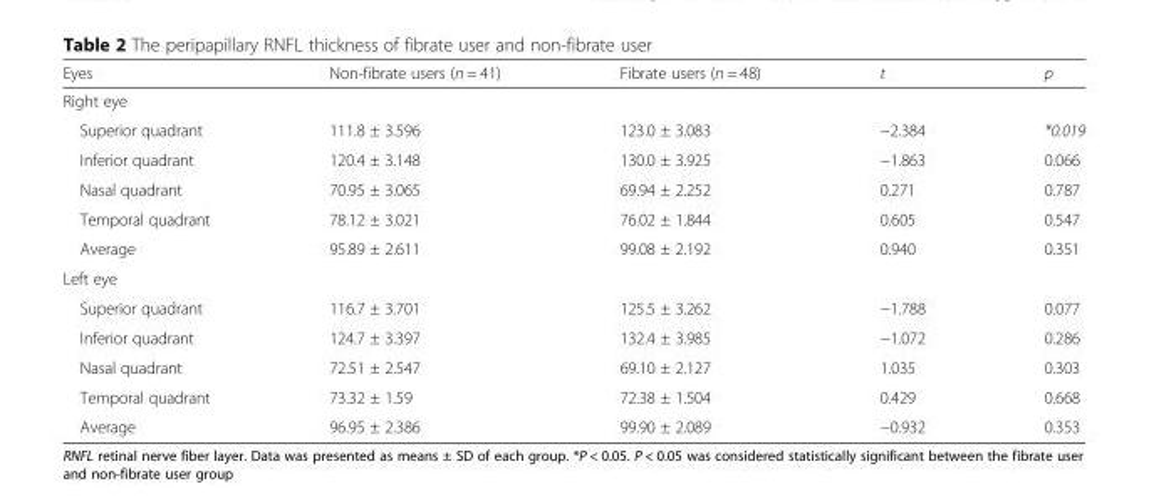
<table><thead><tr><td>Eyes</td><td>Non-fibrate users (n = 41)</td><td>Fibrate users (n = 48)</td><td>t</td><td>p</td></tr></thead><tbody><tr><td colspan="5">Right eye</td></tr><tr><td>Superior quadrant</td><td>111.8 ± 3.596</td><td>123.0 ± 3.083</td><td>−2.384</td><td>*0.019</td></tr><tr><td>Inferior quadrant</td><td>120.4 ± 3.148</td><td>130.0 ± 3.925</td><td>−1.863</td><td>0.066</td></tr><tr><td>Nasal quadrant</td><td>70.95 ± 3.065</td><td>69.94 ± 2.252</td><td>0.271</td><td>0.787</td></tr><tr><td>Temporal quadrant</td><td>78.12 ± 3.021</td><td>76.02 ± 1.844</td><td>0.605</td><td>0.547</td></tr><tr><td>Average</td><td>95.89 ± 2.611</td><td>99.08 ± 2.192</td><td>0.940</td><td>0.351</td></tr><tr><td colspan="5">Left eye</td></tr><tr><td>Superior quadrant</td><td>116.7 ± 3.701</td><td>125.5 ± 3.262</td><td>−1.788</td><td>0.077</td></tr><tr><td>Inferior quadrant</td><td>124.7 ± 3.397</td><td>132.4 ± 3.985</td><td>−1.072</td><td>0.286</td></tr><tr><td>Nasal quadrant</td><td>72.51 ± 2.547</td><td>69.10 ± 2.127</td><td>1.035</td><td>0.303</td></tr><tr><td>Temporal quadrant</td><td>73.32 ± 1.59</td><td>72.38 ± 1.504</td><td>0.429</td><td>0.668</td></tr><tr><td>Average</td><td>96.95 ± 2.386</td><td>99.90 ± 2.089</td><td>−0.932</td><td>0.353</td></tr></tbody></table>